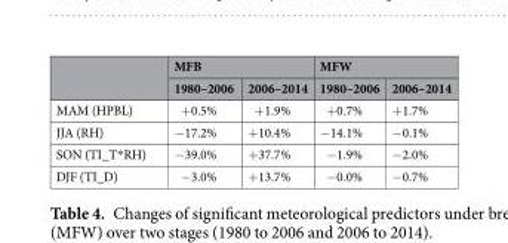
<table><thead><tr><td rowspan="2"></td><td colspan="2">MFB</td><td colspan="2">MFW</td></tr><tr><td>1980–2006</td><td>2006–2014</td><td>1980–2006</td><td>2006–2014</td></tr></thead><tbody><tr><td>MAM (HPBL)</td><td>+0.5%</td><td>+1.9%</td><td>+0.7%</td><td>+1.7%</td></tr><tr><td>JJA (RH)</td><td>−17.2%</td><td>+10.4%</td><td>−14.1%</td><td>−0.1%</td></tr><tr><td>SON (TI_T*RH)</td><td>−39.0%</td><td>+37.7%</td><td>−1.9%</td><td>−2.0%</td></tr><tr><td>DJF (TI_D)</td><td>−3.0%</td><td>+13.7%</td><td>−0.0%</td><td>−0.7%</td></tr></tbody></table>